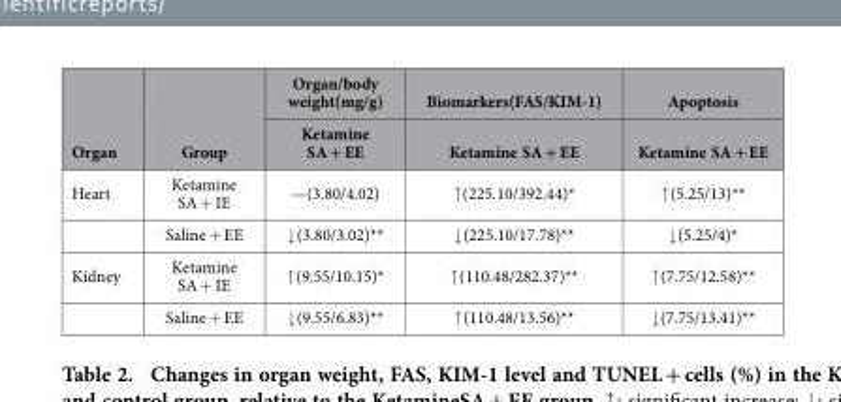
<table><thead><tr><td rowspan="2">Organ</td><td rowspan="2">Group</td><td rowspan="2">Organ/body weight(mg/g) Ketamine SA + EE</td><td rowspan="2">Biomarkers(FAS/KIM-1) Ketamine SA + EE</td><td rowspan="2">Apoptosis Ketamine SA + EE</td></tr><tr></tr></thead><tbody><tr><td rowspan="2">Heart</td><td>Ketamine SA + IE</td><td>—(3.80/4.02)</td><td>↑ (225.10/392.44)*</td><td>↑ (5.25/13)**</td></tr><tr><td>Saline + EE</td><td>↓ (3.80/3.02)**</td><td>↓ (225.10/17.78)**</td><td>↓ (5.25/4)*</td></tr><tr><td rowspan="2">Kidney</td><td>Ketamine SA + IE</td><td>↑ (9.55/10.15)*</td><td>↑ (110.48/282.37)**</td><td>↑ (7.75/12.58)**</td></tr><tr><td>Saline + EE</td><td>↓ (9.55/6.83)**</td><td>↑ (110.48/13.56)**</td><td>↓ (7.75/13.41)**</td></tr></tbody></table>